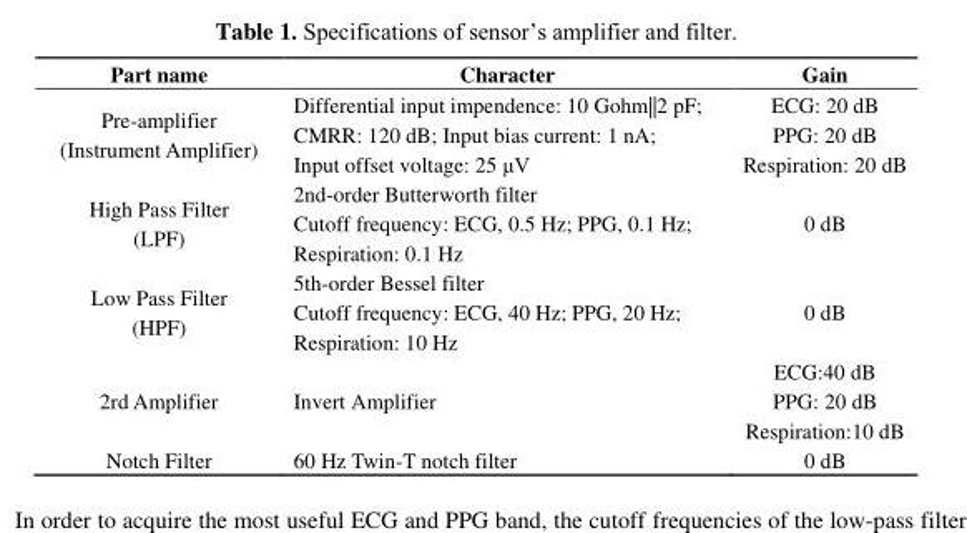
<table><thead><tr><td>Part name</td><td>Character</td><td>Gain</td></tr></thead><tbody><tr><td>Pre-amplifier (Instrument Amplifier)</td><td>Differential input impendence: 10 Gohm||2 pF; CMRR: 120 dB; Input bias current: 1 nA; Input offset voltage: 25 μV</td><td>ECG: 20 dB PPG: 20 dB Respiration: 20 dB</td></tr><tr><td>High Pass Filter (LPF)</td><td>2nd-order Butterworth filter Cutoff frequency: ECG, 0.5 Hz; PPG, 0.1 Hz; Respiration: 0.1 Hz</td><td>0 dB</td></tr><tr><td>Low Pass Filter (HPF)</td><td>5th-order Bessel filter Cutoff frequency: ECG, 40 Hz; PPG, 20 Hz; Respiration: 10 Hz</td><td>0 dB</td></tr><tr><td>2rd Amplifier</td><td>Invert Amplifier</td><td>ECG:40 dB PPG: 20 dB Respiration:10 dB</td></tr><tr><td>Notch Filter</td><td>60 Hz Twin-T notch filter</td><td>0 dB</td></tr></tbody></table>